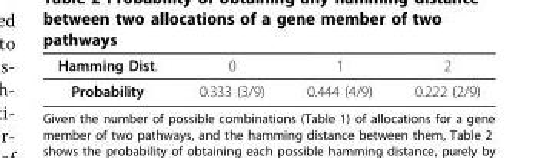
<table><thead><tr><td>Hamming Dist.</td><td>0</td><td>1</td><td>2</td></tr></thead><tbody><tr><td>Probability</td><td>0.333 (3/9)</td><td>0.444 (4/9)</td><td>0.222 (2/9)</td></tr></tbody></table>